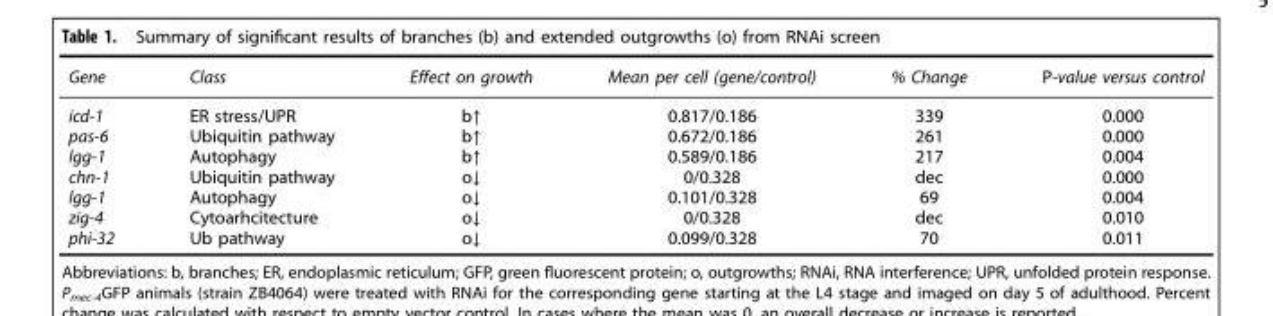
<table><thead><tr><td>Gene</td><td>Class</td><td>Effect on growth</td><td>Mean per cell (gene/control)</td><td>% Change</td><td>P-value versus control</td></tr></thead><tbody><tr><td>icd-1</td><td>ER stress/UPR</td><td>b↑</td><td>0.817/0.186</td><td>339</td><td>0.000</td></tr><tr><td>pas-6</td><td>Ubiquitin pathway</td><td>b↑</td><td>0.672/0.186</td><td>261</td><td>0.000</td></tr><tr><td>lgg-1</td><td>Autophagy</td><td>b↑</td><td>0.589/0.186</td><td>217</td><td>0.004</td></tr><tr><td>chn-1</td><td>Ubiquitin pathway</td><td>o↓</td><td>0/0.328</td><td>dec</td><td>0.000</td></tr><tr><td>lgg-1</td><td>Autophagy</td><td>o↓</td><td>0.101/0.328</td><td>69</td><td>0.004</td></tr><tr><td>zig-4</td><td>Cytoarhcitecture</td><td>o↓</td><td>0/0.328</td><td>dec</td><td>0.010</td></tr><tr><td>phi-32</td><td>Ub pathway</td><td>o↓</td><td>0.099/0.328</td><td>70</td><td>0.011</td></tr></tbody></table>